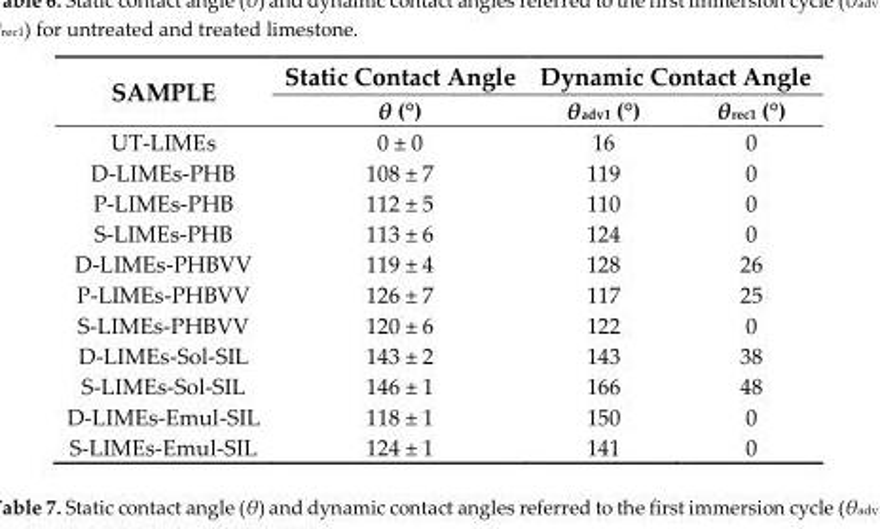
<table><thead><tr><td rowspan="2">SAMPLE</td><td rowspan="2">Static Contact Angle θ (°)</td><td colspan="2">Dynamic Contact Angle</td></tr><tr><td>θ<sub>adv1</sub> (°)</td><td>θ<sub>rec1</sub> (°)</td></tr></thead><tbody><tr><td>UT-LIMEs</td><td>0 ± 0</td><td>16</td><td>0</td></tr><tr><td>D-LIMEs-PHB</td><td>108 ± 7</td><td>119</td><td>0</td></tr><tr><td>P-LIMEs-PHB</td><td>112 ± 5</td><td>110</td><td>0</td></tr><tr><td>S-LIMEs-PHB</td><td>113 ± 6</td><td>124</td><td>0</td></tr><tr><td>D-LIMEs-PHBVV</td><td>119 ± 4</td><td>128</td><td>26</td></tr><tr><td>P-LIMEs-PHBVV</td><td>126 ± 7</td><td>117</td><td>25</td></tr><tr><td>S-LIMEs-PHBVV</td><td>120 ± 6</td><td>122</td><td>0</td></tr><tr><td>D-LIMEs-Sol-SIL</td><td>143 ± 2</td><td>143</td><td>38</td></tr><tr><td>S-LIMEs-Sol-SIL</td><td>146 ± 1</td><td>166</td><td>48</td></tr><tr><td>D-LIMEs-Emul-SIL</td><td>118 ± 1</td><td>150</td><td>0</td></tr><tr><td>S-LIMEs-Emul-SIL</td><td>124 ± 1</td><td>141</td><td>0</td></tr></tbody></table>